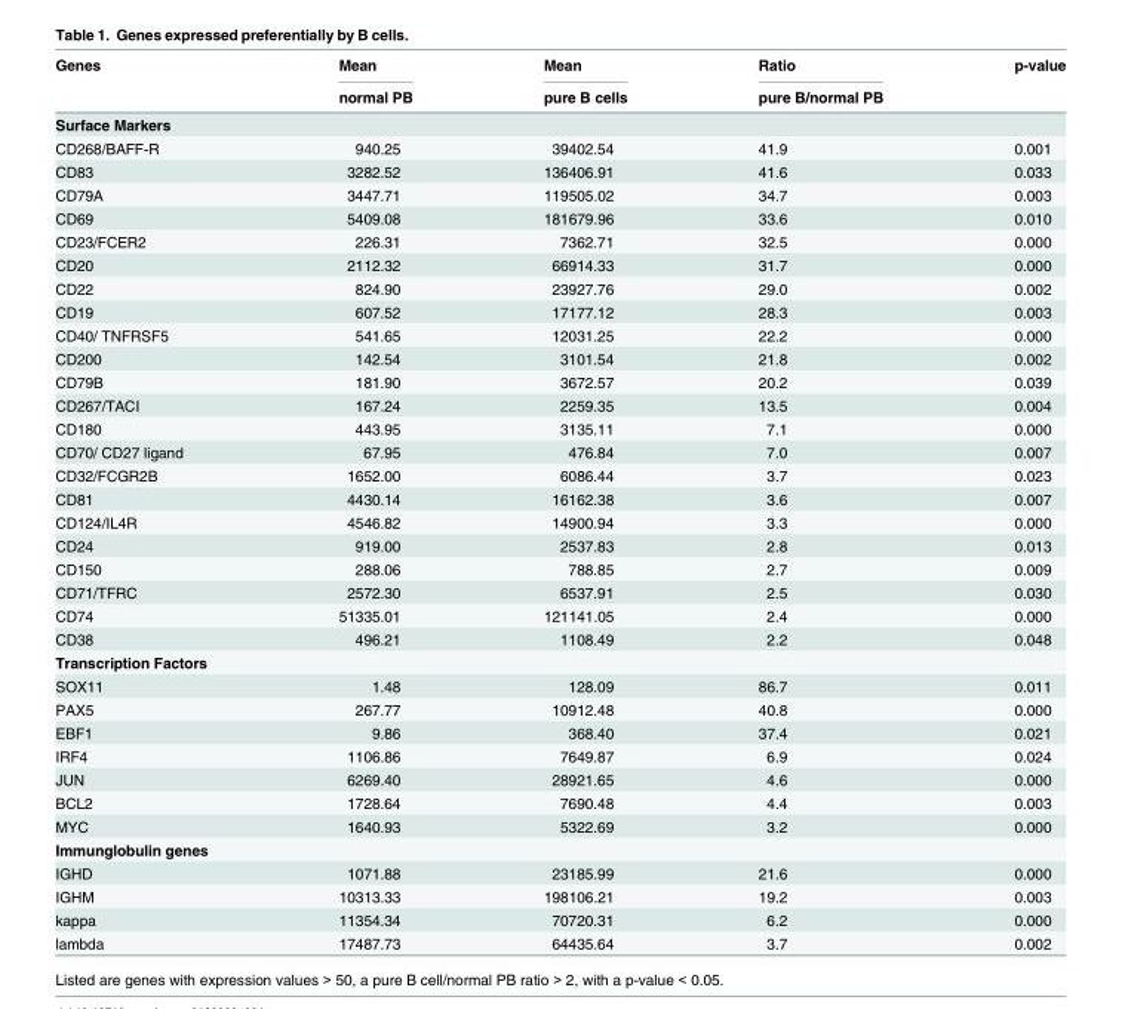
<table><thead><tr><td rowspan="2">Genes</td><td rowspan="2">Mean normal PB</td><td rowspan="2">Mean pure B cells</td><td rowspan="2">Ratio pure B/normal PB</td><td rowspan="2">p-value</td></tr><tr></tr></thead><tbody><tr><td colspan="5">Surface Markers</td></tr><tr><td>CD268/BAFF-R</td><td>940.25</td><td>39402.54</td><td>41.9</td><td>0.001</td></tr><tr><td>CD83</td><td>3282.52</td><td>136406.91</td><td>41.6</td><td>0.033</td></tr><tr><td>CD79A</td><td>3447.71</td><td>119505.02</td><td>34.7</td><td>0.003</td></tr><tr><td>CD69</td><td>5409.08</td><td>181679.96</td><td>33.6</td><td>0.010</td></tr><tr><td>CD23/FCER2</td><td>226.31</td><td>7362.71</td><td>32.5</td><td>0.000</td></tr><tr><td>CD20</td><td>2112.32</td><td>66914.33</td><td>31.7</td><td>0.000</td></tr><tr><td>CD22</td><td>824.90</td><td>23927.76</td><td>29.0</td><td>0.002</td></tr><tr><td>CD19</td><td>607.52</td><td>17177.12</td><td>28.3</td><td>0.003</td></tr><tr><td>CD40/ TNFRSF5</td><td>541.65</td><td>12031.25</td><td>22.2</td><td>0.000</td></tr><tr><td>CD200</td><td>142.54</td><td>3101.54</td><td>21.8</td><td>0.002</td></tr><tr><td>CD79B</td><td>181.90</td><td>3672.57</td><td>20.2</td><td>0.039</td></tr><tr><td>CD267/TACI</td><td>167.24</td><td>2259.35</td><td>13.5</td><td>0.004</td></tr><tr><td>CD180</td><td>443.95</td><td>3135.11</td><td>7.1</td><td>0.000</td></tr><tr><td>CD70/ CD27 ligand</td><td>67.95</td><td>476.84</td><td>7.0</td><td>0.007</td></tr><tr><td>CD32/FCGR2B</td><td>1652.00</td><td>6086.44</td><td>3.7</td><td>0.023</td></tr><tr><td>CD81</td><td>4430.14</td><td>16162.38</td><td>3.6</td><td>0.007</td></tr><tr><td>CD124/IL4R</td><td>4546.82</td><td>14900.94</td><td>3.3</td><td>0.000</td></tr><tr><td>CD24</td><td>919.00</td><td>2537.83</td><td>2.8</td><td>0.013</td></tr><tr><td>CD150</td><td>288.06</td><td>788.85</td><td>2.7</td><td>0.009</td></tr><tr><td>CD71/TFRC</td><td>2572.30</td><td>6537.91</td><td>2.5</td><td>0.030</td></tr><tr><td>CD74</td><td>51335.01</td><td>121141.05</td><td>2.4</td><td>0.000</td></tr><tr><td>CD38</td><td>496.21</td><td>1108.49</td><td>2.2</td><td>0.048</td></tr><tr><td colspan="5">Transcription Factors</td></tr><tr><td>SOX11</td><td>1.48</td><td>128.09</td><td>86.7</td><td>0.011</td></tr><tr><td>PAX5</td><td>267.77</td><td>10912.48</td><td>40.8</td><td>0.000</td></tr><tr><td>EBF1</td><td>9.86</td><td>368.40</td><td>37.4</td><td>0.021</td></tr><tr><td>IRF4</td><td>1106.86</td><td>7649.87</td><td>6.9</td><td>0.024</td></tr><tr><td>JUN</td><td>6269.40</td><td>28921.65</td><td>4.6</td><td>0.000</td></tr><tr><td>BCL2</td><td>1728.64</td><td>7690.48</td><td>4.4</td><td>0.003</td></tr><tr><td>MYC</td><td>1640.93</td><td>5322.69</td><td>3.2</td><td>0.000</td></tr><tr><td colspan="5">Immunglobulin genes</td></tr><tr><td>IGHD</td><td>1071.88</td><td>23185.99</td><td>21.6</td><td>0.000</td></tr><tr><td>IGHM</td><td>10313.33</td><td>198106.21</td><td>19.2</td><td>0.003</td></tr><tr><td>kappa</td><td>11354.34</td><td>70720.31</td><td>6.2</td><td>0.000</td></tr><tr><td>lambda</td><td>17487.73</td><td>64435.64</td><td>3.7</td><td>0.002</td></tr></tbody></table>